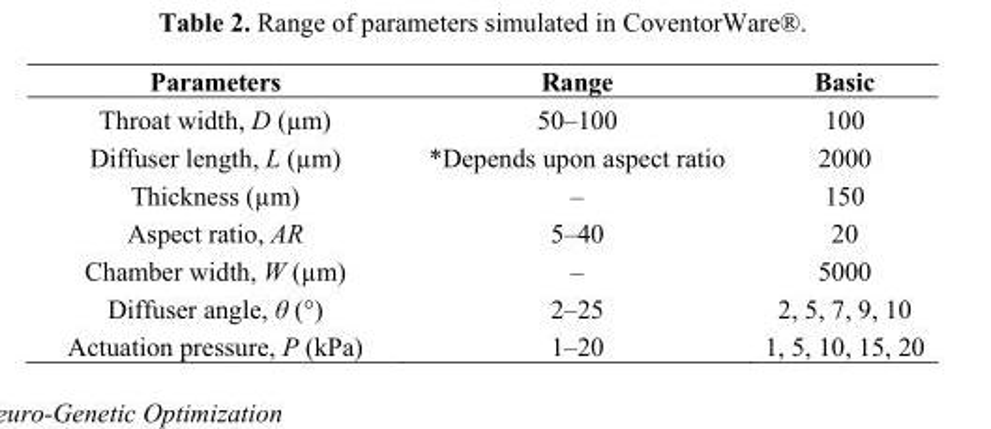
<table><thead><tr><td>Parameters</td><td>Range</td><td>Basic</td></tr></thead><tbody><tr><td>Throat width, D (µm)</td><td>50–100</td><td>100</td></tr><tr><td>Diffuser length, L (µm)</td><td>*Depends upon aspect ratio</td><td>2000</td></tr><tr><td>Thickness (µm)</td><td>–</td><td>150</td></tr><tr><td>Aspect ratio, AR</td><td>5–40</td><td>20</td></tr><tr><td>Chamber width, W (µm)</td><td>–</td><td>5000</td></tr><tr><td>Diffuser angle, θ (°)</td><td>2–25</td><td>2, 5, 7, 9, 10</td></tr><tr><td>Actuation pressure, P (kPa)</td><td>1–20</td><td>1, 5, 10, 15, 20</td></tr></tbody></table>